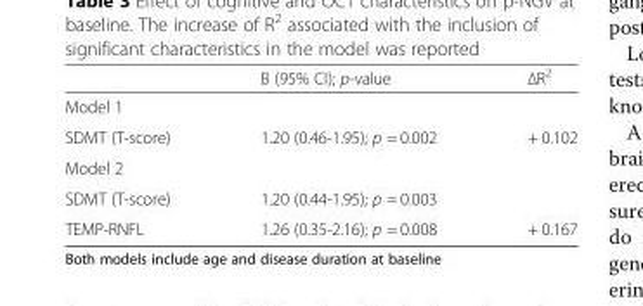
<table><thead><tr><td></td><td>B (95% CI); p-value</td><td>ΔR2</td></tr></thead><tbody><tr><td colspan="3">Model 1</td></tr><tr><td>SDMT (T-score)</td><td>1.20 (0.46-1.95); p = 0.002</td><td>+ 0.102</td></tr><tr><td colspan="3">Model 2</td></tr><tr><td>SDMT (T-score)</td><td>1.20 (0.44-1.95); p = 0.003</td><td></td></tr><tr><td>TEMP-RNFL</td><td>1.26 (0.35-2.16); p = 0.008</td><td>+ 0.167</td></tr></tbody></table>